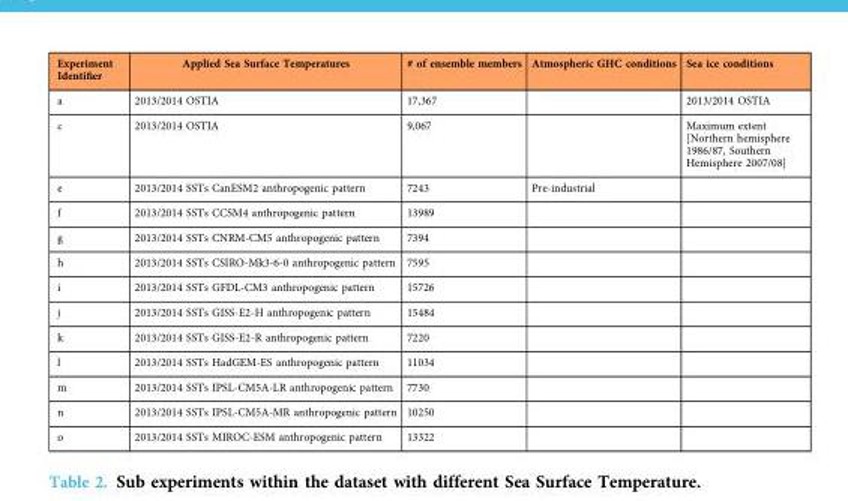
<table><thead><tr><td>Experiment Identifier</td><td>Applied Sea Surface Temperatures</td><td># of ensemble members</td><td>Atmospheric GHC conditions</td><td>Sea ice conditions</td></tr></thead><tbody><tr><td>a</td><td>2013/2014 OSTIA</td><td>17,367</td><td></td><td>2013/2014 OSTIA</td></tr><tr><td>c</td><td>2013/2014 OSTIA</td><td>9,067</td><td></td><td>Maximum extent [Northern hemisphere 1986/87, Southern Hemisphere 2007/08]</td></tr><tr><td>e</td><td>2013/2014 SSTs CanESM2 anthropogenic pattern</td><td>7243</td><td>Pre-industrial</td><td></td></tr><tr><td>f</td><td>2013/2014 SSTs CCSM4 anthropogenic pattern</td><td>13989</td><td></td><td></td></tr><tr><td>g</td><td>2013/2014 SSTs CNRM-CM5 anthropogenic pattern</td><td>7394</td><td></td><td></td></tr><tr><td>h</td><td>2013/2014 SSTs CSIRO-Mk3-6-0 anthropogenic pattern</td><td>7595</td><td></td><td></td></tr><tr><td>i</td><td>2013/2014 SSTs GFDL-CM3 anthropogenic pattern</td><td>15726</td><td></td><td></td></tr><tr><td>j</td><td>2013/2014 SSTs GISS-E2-H anthropogenic pattern</td><td>15484</td><td></td><td></td></tr><tr><td>k</td><td>2013/2014 SSTs GISS-E2-R anthropogenic pattern</td><td>7220</td><td></td><td></td></tr><tr><td>l</td><td>2013/2014 SSTs HadGEM-ES anthropogenic pattern</td><td>11034</td><td></td><td></td></tr><tr><td>m</td><td>2013/2014 SSTs IPSL-CM5A-LR anthropogenic pattern</td><td>7730</td><td></td><td></td></tr><tr><td>n</td><td>2013/2014 SSTs IPSL-CM5A-MR anthropogenic pattern</td><td>10250</td><td></td><td></td></tr><tr><td>o</td><td>2013/2014 SSTs MIROC-ESM anthropogenic pattern</td><td>13322</td><td></td><td></td></tr></tbody></table>